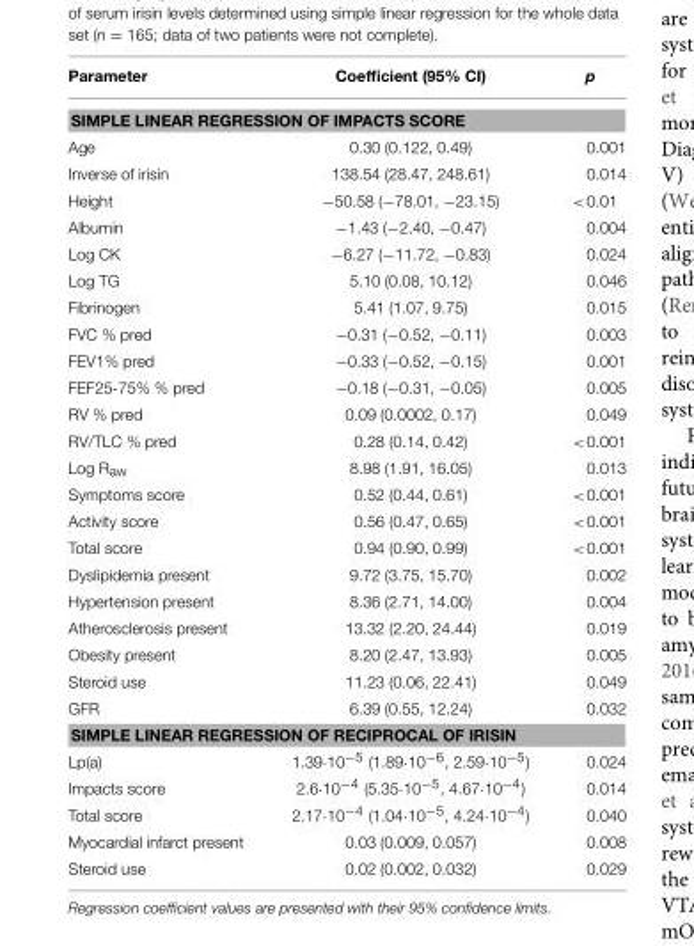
<table><thead><tr><td>Parameter</td><td>Coefficient (95% CI)</td><td>p</td></tr></thead><tbody><tr><td colspan="3">SIMPLE LINEAR REGRESSION OF IMPACTS SCORE</td></tr><tr><td>Age</td><td>0.30 (0.122, 0.49)</td><td>0.001</td></tr><tr><td>Inverse of irisin</td><td>138.54 (28.47, 248.61)</td><td>0.014</td></tr><tr><td>Height</td><td>−50.58 (−78.01, −23.15)</td><td>&lt;0.01</td></tr><tr><td>Albumin</td><td>−1.43 (−2.40, −0.47)</td><td>0.004</td></tr><tr><td>Log CK</td><td>−6.27 (−11.72, −0.83)</td><td>0.024</td></tr><tr><td>Log TG</td><td>5.10 (0.08, 10.12)</td><td>0.046</td></tr><tr><td>Fibrinogen</td><td>5.41 (1.07, 9.75)</td><td>0.015</td></tr><tr><td>FVC % pred</td><td>−0.31 (−0.52, −0.11)</td><td>0.003</td></tr><tr><td>FEV1% pred</td><td>−0.33 (−0.52, −0.15)</td><td>0.001</td></tr><tr><td>FEF25-75% % pred</td><td>−0.18 (−0.31, −0.05)</td><td>0.005</td></tr><tr><td>RV % pred</td><td>0.09 (0.0002, 0.17)</td><td>0.049</td></tr><tr><td>RV/TLC % pred</td><td>0.28 (0.14, 0.42)</td><td>&lt;0.001</td></tr><tr><td>Log R<sub>aw</sub></td><td>8.98 (1.91, 16.05)</td><td>0.013</td></tr><tr><td>Symptoms score</td><td>0.52 (0.44, 0.61)</td><td>&lt;0.001</td></tr><tr><td>Activity score</td><td>0.56 (0.47, 0.65)</td><td>&lt;0.001</td></tr><tr><td>Total score</td><td>0.94 (0.90, 0.99)</td><td>&lt;0.001</td></tr><tr><td>Dyslipidemia present</td><td>9.72 (3.75, 15.70)</td><td>0.002</td></tr><tr><td>Hypertension present</td><td>8.36 (2.71, 14.00)</td><td>0.004</td></tr><tr><td>Atherosclerosis present</td><td>13.32 (2.20, 24.44)</td><td>0.019</td></tr><tr><td>Obesity present</td><td>8.20 (2.47, 13.93)</td><td>0.005</td></tr><tr><td>Steroid use</td><td>11.23 (0.06, 22.41)</td><td>0.049</td></tr><tr><td>GFR</td><td>6.39 (0.55, 12.24)</td><td>0.032</td></tr><tr><td colspan="3">SIMPLE LINEAR REGRESSION OF RECIPROCAL OF IRISIN</td></tr><tr><td>Lp(a)</td><td>1.39·10<sup>−5</sup> (1.89·10<sup>−6</sup>, 2.59·10<sup>−5</sup>)</td><td>0.024</td></tr><tr><td>Impacts score</td><td>2.6·10<sup>−4</sup> (5.35·10<sup>−5</sup>, 4.67·10<sup>−4</sup>)</td><td>0.014</td></tr><tr><td>Total score</td><td>2.17·10<sup>−4</sup> (1.04·10<sup>−5</sup>, 4.24·10<sup>−4</sup>)</td><td>0.040</td></tr><tr><td>Myocardial infarct present</td><td>0.03 (0.009, 0.057)</td><td>0.008</td></tr><tr><td>Steroid use</td><td>0.02 (0.002, 0.032)</td><td>0.029</td></tr></tbody></table>